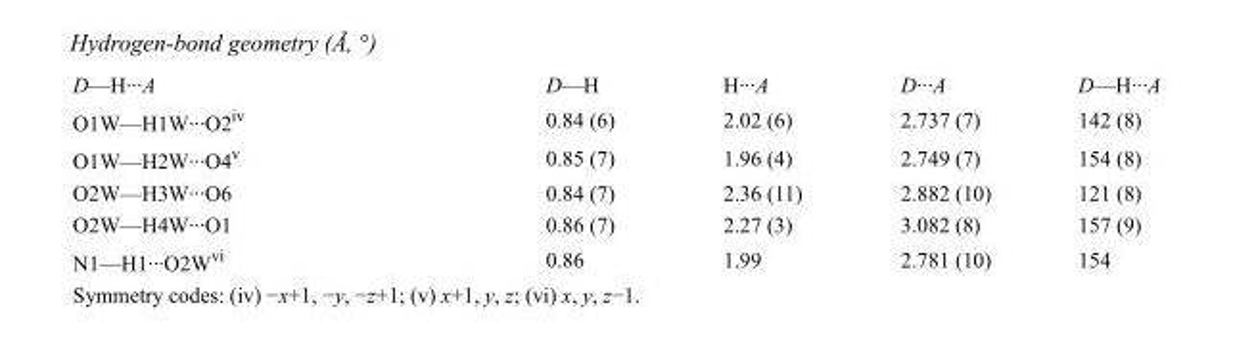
<table><tbody><tr><td>D—H···A</td><td>D—H</td><td>H···A</td><td>D···A</td><td>D—H···A</td></tr><tr><td>O1W—H1W···O2<sup>iv</sup></td><td>0.84 (6)</td><td>2.02 (6)</td><td>2.737 (7)</td><td>142 (8)</td></tr><tr><td>O1W—H2W···O4<sup>v</sup></td><td>0.85 (7)</td><td>1.96 (4)</td><td>2.749 (7)</td><td>154 (8)</td></tr><tr><td>O2W—H3W···O6</td><td>0.84 (7)</td><td>2.36 (11)</td><td>2.882 (10)</td><td>121 (8)</td></tr><tr><td>O2W—H4W···O1</td><td>0.86 (7)</td><td>2.27 (3)</td><td>3.082 (8)</td><td>157 (9)</td></tr><tr><td>N1—H1···O2W<sup>vi</sup></td><td>0.86</td><td>1.99</td><td>2.781 (10)</td><td>154</td></tr></tbody></table>